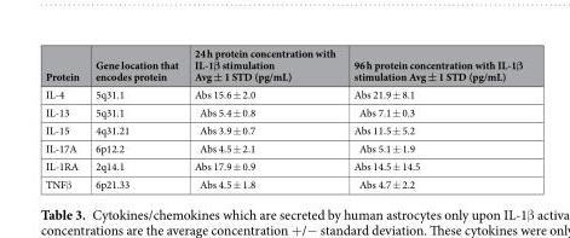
<table><thead><tr><td>Protein</td><td>Gene location that encodes protein</td><td>24 h protein concentration with IL-1β stimulation Avg ± 1 STD (pg/mL)</td><td>96 h protein concentration with IL-1β stimulation Avg ± 1 STD (pg/mL)</td></tr></thead><tbody><tr><td>IL-4</td><td>5q31.1</td><td>Abs 15.6 ± 2.0</td><td>Abs 21.9 ± 8.1</td></tr><tr><td>IL-13</td><td>5q31.1</td><td>Abs 5.4 ± 0.8</td><td>Abs 7.1 ± 0.3</td></tr><tr><td>IL-15</td><td>4q31.21</td><td>Abs 3.9 ± 0.7</td><td>Abs 11.5 ± 5.2</td></tr><tr><td>IL-17A</td><td>6p12.2</td><td>Abs 4.5 ± 2.1</td><td>Abs 5.1 ± 1.9</td></tr><tr><td>IL-1RA</td><td>2q14.1</td><td>Abs 17.9 ± 0.9</td><td>Abs 14.5 ± 14.5</td></tr><tr><td>TNFβ</td><td>6p21.33</td><td>Abs 4.5 ± 1.8</td><td>Abs 4.7 ± 2.2</td></tr></tbody></table>